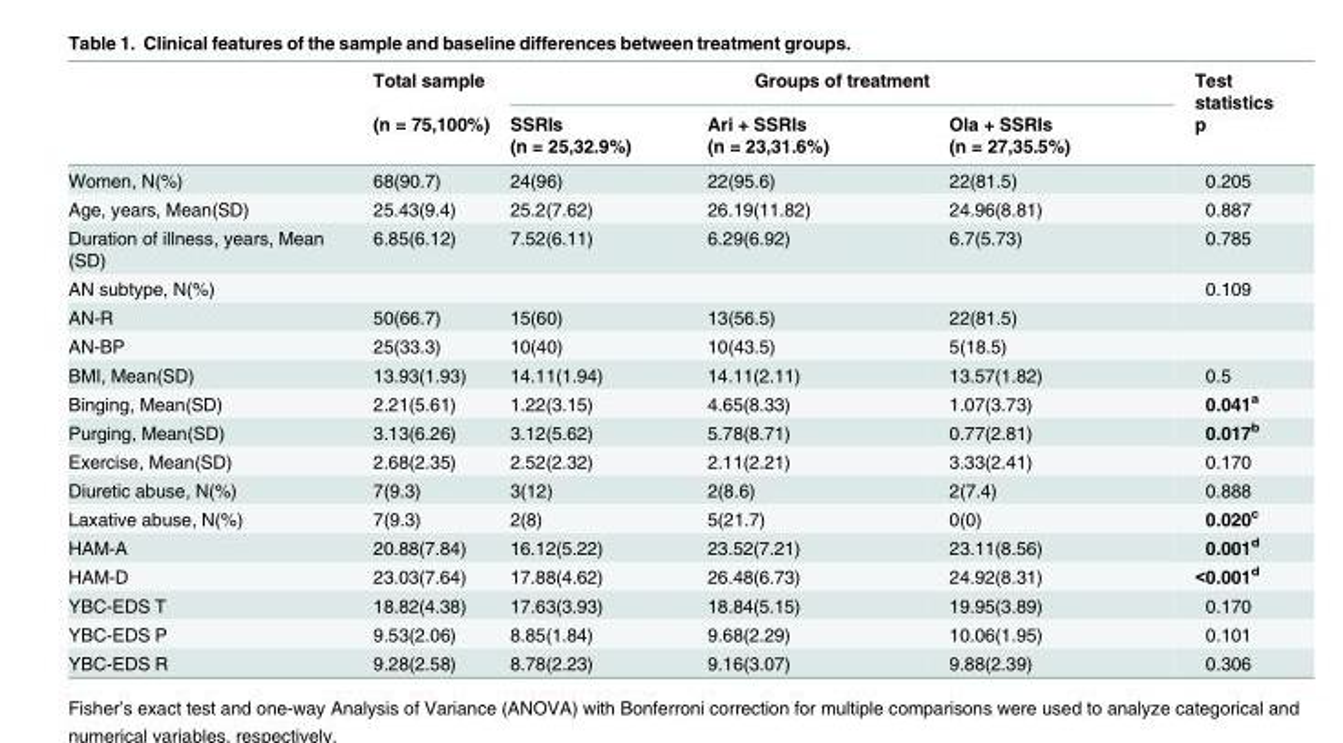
<table><thead><tr><td rowspan="2"></td><td rowspan="2">Total sample (n = 75,100%)</td><td colspan="3">Groups of treatment</td><td rowspan="2">Test statistics p</td></tr><tr><td>SSRIs (n = 25,32.9%)</td><td>Ari + SSRIs (n = 23,31.6%)</td><td>Ola + SSRIs (n = 27,35.5%)</td></tr></thead><tbody><tr><td>Women, N(%)</td><td>68(90.7)</td><td>24(96)</td><td>22(95.6)</td><td>22(81.5)</td><td>0.205</td></tr><tr><td>Age, years, Mean(SD)</td><td>25.43(9.4)</td><td>25.2(7.62)</td><td>26.19(11.82)</td><td>24.96(8.81)</td><td>0.887</td></tr><tr><td>Duration of illness, years, Mean (SD)</td><td>6.85(6.12)</td><td>7.52(6.11)</td><td>6.29(6.92)</td><td>6.7(5.73)</td><td>0.785</td></tr><tr><td>AN subtype, N(%)</td><td></td><td></td><td></td><td></td><td>0.109</td></tr><tr><td>AN-R</td><td>50(66.7)</td><td>15(60)</td><td>13(56.5)</td><td>22(81.5)</td><td></td></tr><tr><td>AN-BP</td><td>25(33.3)</td><td>10(40)</td><td>10(43.5)</td><td>5(18.5)</td><td></td></tr><tr><td>BMI, Mean(SD)</td><td>13.93(1.93)</td><td>14.11(1.94)</td><td>14.11(2.11)</td><td>13.57(1.82)</td><td>0.5</td></tr><tr><td>Binging, Mean(SD)</td><td>2.21(5.61)</td><td>1.22(3.15)</td><td>4.65(8.33)</td><td>1.07(3.73)</td><td>0.041<sup>a</sup></td></tr><tr><td>Purging, Mean(SD)</td><td>3.13(6.26)</td><td>3.12(5.62)</td><td>5.78(8.71)</td><td>0.77(2.81)</td><td>0.017<sup>b</sup></td></tr><tr><td>Exercise, Mean(SD)</td><td>2.68(2.35)</td><td>2.52(2.32)</td><td>2.11(2.21)</td><td>3.33(2.41)</td><td>0.170</td></tr><tr><td>Diuretic abuse, N(%)</td><td>7(9.3)</td><td>3(12)</td><td>2(8.6)</td><td>2(7.4)</td><td>0.888</td></tr><tr><td>Laxative abuse, N(%)</td><td>7(9.3)</td><td>2(8)</td><td>5(21.7)</td><td>0(0)</td><td>0.020<sup>c</sup></td></tr><tr><td>HAM-A</td><td>20.88(7.84)</td><td>16.12(5.22)</td><td>23.52(7.21)</td><td>23.11(8.56)</td><td>0.001<sup>d</sup></td></tr><tr><td>HAM-D</td><td>23.03(7.64)</td><td>17.88(4.62)</td><td>26.48(6.73)</td><td>24.92(8.31)</td><td>&lt;0.001<sup>d</sup></td></tr><tr><td>YBC-EDS T</td><td>18.82(4.38)</td><td>17.63(3.93)</td><td>18.84(5.15)</td><td>19.95(3.89)</td><td>0.170</td></tr><tr><td>YBC-EDS P</td><td>9.53(2.06)</td><td>8.85(1.84)</td><td>9.68(2.29)</td><td>10.06(1.95)</td><td>0.101</td></tr><tr><td>YBC-EDS R</td><td>9.28(2.58)</td><td>8.78(2.23)</td><td>9.16(3.07)</td><td>9.88(2.39)</td><td>0.306</td></tr></tbody></table>